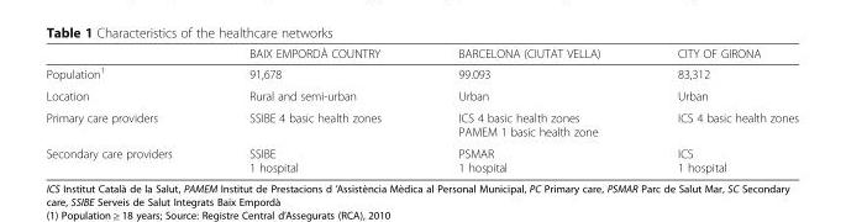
<table><thead><tr><td></td><td>BAIX EMPORDÀ COUNTRY</td><td>BARCELONA (CIUTAT VELLA)</td><td>CITY OF GIRONA</td></tr></thead><tbody><tr><td>Population<sup>1</sup></td><td>91,678</td><td>99.093</td><td>83,312</td></tr><tr><td>Location</td><td>Rural and semi-urban</td><td>Urban</td><td>Urban</td></tr><tr><td>Primary care providers</td><td>SSIBE 4 basic health zones</td><td>ICS 4 basic health zones PAMEM 1 basic health zone</td><td>ICS 4 basic health zones</td></tr><tr><td>Secondary care providers</td><td>SSIBE 1 hospital</td><td>PSMAR 1 hospital</td><td>ICS 1 hospital</td></tr></tbody></table>